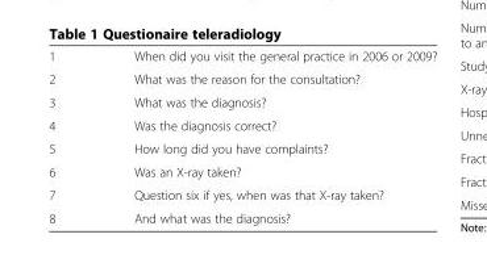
<table><tbody><tr><td>1</td><td>When did you visit the general practice in 2006 or 2009?</td></tr><tr><td>2</td><td>What was the reason for the consultation?</td></tr><tr><td>3</td><td>What was the diagnosis?</td></tr><tr><td>4</td><td>Was the diagnosis correct?</td></tr><tr><td>5</td><td>How long did you have complaints?</td></tr><tr><td>6</td><td>Was an X-ray taken?</td></tr><tr><td>7</td><td>Question six if yes, when was that X-ray taken?</td></tr><tr><td>8</td><td>And what was the diagnosis?</td></tr></tbody></table>